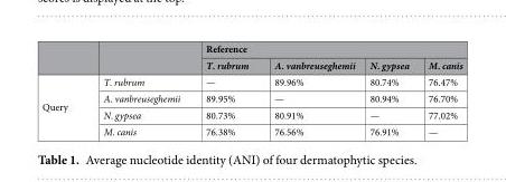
<table><thead><tr><td rowspan="2"></td><td rowspan="2"></td><td colspan="4">Reference</td></tr><tr><td>T. rubrum</td><td>A. vanbreuseghemii</td><td>N. gypsea</td><td>M. canis</td></tr></thead><tbody><tr><td rowspan="4">Query</td><td>T. rubrum</td><td>—</td><td>89.96%</td><td>80.74%</td><td>76.47%</td></tr><tr><td>A. vanbreuseghemii</td><td>89.95%</td><td>—</td><td>80.94%</td><td>76.70%</td></tr><tr><td>N. gypsea</td><td>80.73%</td><td>80.91%</td><td>—</td><td>77.02%</td></tr><tr><td>M. canis</td><td>76.38%</td><td>76.56%</td><td>76.91%</td><td>—</td></tr></tbody></table>